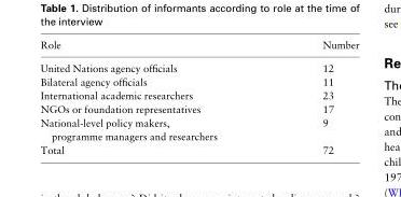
<table><thead><tr><td>Role</td><td>Number</td></tr></thead><tbody><tr><td>United Nations agency officials</td><td>12</td></tr><tr><td>Bilateral agency officials</td><td>11</td></tr><tr><td>International academic researchers</td><td>23</td></tr><tr><td>NGOs or foundation representatives</td><td>17</td></tr><tr><td>National-level policy makers, programme managers and researchers</td><td>9</td></tr><tr><td>Total</td><td>72</td></tr></tbody></table>